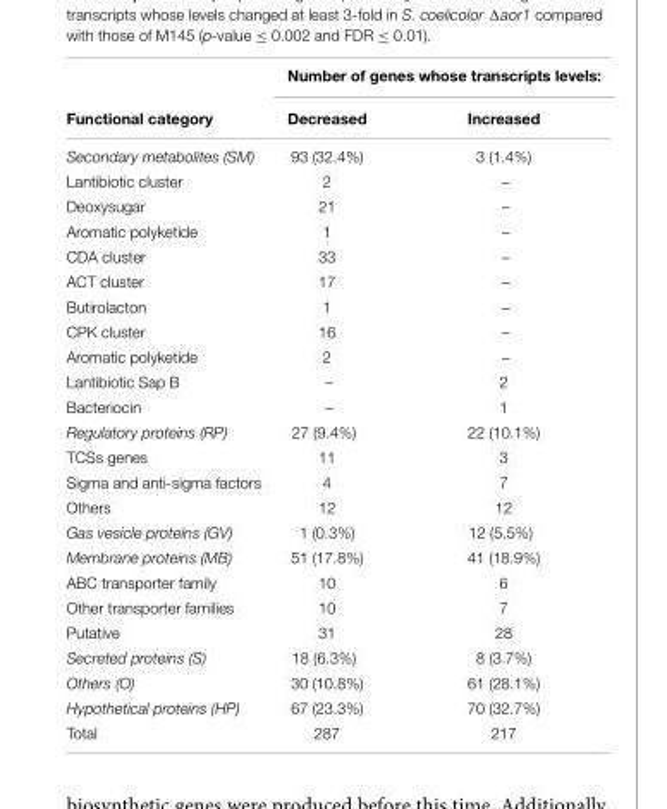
<table><thead><tr><td rowspan="2">Functional category</td><td colspan="2">Number of genes whose transcripts levels:</td></tr><tr><td>Decreased</td><td>Increased</td></tr></thead><tbody><tr><td>Secondary metabolites (SM)</td><td>93 (32.4%)</td><td>3 (1.4%)</td></tr><tr><td>Lantibiotic cluster</td><td>2</td><td>–</td></tr><tr><td>Deoxysugar</td><td>21</td><td>–</td></tr><tr><td>Aromatic polyketide</td><td>1</td><td>–</td></tr><tr><td>CDA cluster</td><td>33</td><td>–</td></tr><tr><td>ACT cluster</td><td>17</td><td>–</td></tr><tr><td>Butirolacton</td><td>1</td><td>–</td></tr><tr><td>CPK cluster</td><td>16</td><td>–</td></tr><tr><td>Aromatic polyketide</td><td>2</td><td>–</td></tr><tr><td>Lantibiotic Sap B</td><td>–</td><td>2</td></tr><tr><td>Bacteriocin</td><td>–</td><td>1</td></tr><tr><td>Regulatory proteins (RP)</td><td>27 (9.4%)</td><td>22 (10.1%)</td></tr><tr><td>TCSs genes</td><td>11</td><td>3</td></tr><tr><td>Sigma and anti-sigma factors</td><td>4</td><td>7</td></tr><tr><td>Others</td><td>12</td><td>12</td></tr><tr><td>Gas vesicle proteins (GV)</td><td>1 (0.3%)</td><td>12 (5.5%)</td></tr><tr><td>Membrane proteins (MB)</td><td>51 (17.8%)</td><td>41 (18.9%)</td></tr><tr><td>ABC transporter family</td><td>10</td><td>6</td></tr><tr><td>Other transporter families</td><td>10</td><td>7</td></tr><tr><td>Putative</td><td>31</td><td>28</td></tr><tr><td>Secreted proteins (S)</td><td>18 (6.3%)</td><td>8 (3.7%)</td></tr><tr><td>Others (O)</td><td>30 (10.8%)</td><td>61 (28.1%)</td></tr><tr><td>Hypothetical proteins (HP)</td><td>67 (23.3%)</td><td>70 (32.7%)</td></tr><tr><td>Total</td><td>287</td><td>217</td></tr></tbody></table>